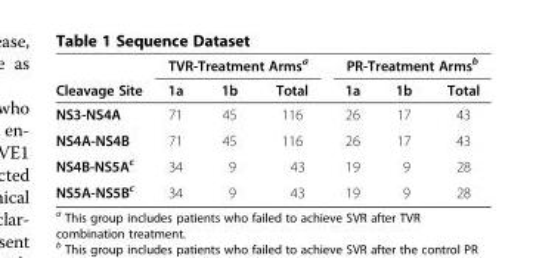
<table><thead><tr><td rowspan="2">Cleavage Site</td><td colspan="3">TVR-Treatment Arms<sup>a</sup></td><td colspan="3">PR-Treatment Arms<sup>b</sup></td></tr><tr><td>1a</td><td>1b</td><td>Total</td><td>1a</td><td>1b</td><td>Total</td></tr></thead><tbody><tr><td>NS3-NS4A</td><td>71</td><td>45</td><td>116</td><td>26</td><td>17</td><td>43</td></tr><tr><td>NS4A-NS4B</td><td>71</td><td>45</td><td>116</td><td>26</td><td>17</td><td>43</td></tr><tr><td>NS4B-NS5A<sup>c</sup></td><td>34</td><td>9</td><td>43</td><td>19</td><td>9</td><td>28</td></tr><tr><td>NS5A-NS5B<sup>c</sup></td><td>34</td><td>9</td><td>43</td><td>19</td><td>9</td><td>28</td></tr></tbody></table>